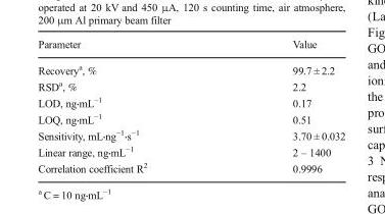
<table><thead><tr><td>Parameter</td><td>Value</td></tr></thead><tbody><tr><td>Recovery<sup>a</sup>, %</td><td>99.7 ± 2.2</td></tr><tr><td>RSD<sup>a</sup>, %</td><td>2.2</td></tr><tr><td>LOD, ng⋅mL<sup>−1</sup></td><td>0.17</td></tr><tr><td>LOQ, ng⋅mL<sup>−1</sup></td><td>0.51</td></tr><tr><td>Sensitivity, mL⋅ng<sup>−1</sup>⋅s<sup>−1</sup></td><td>3.70 ± 0.032</td></tr><tr><td>Linear range, ng⋅mL<sup>−1</sup></td><td>2 – 1400</td></tr><tr><td>Correlation coefficient R<sup>2</sup></td><td>0.9996</td></tr></tbody></table>